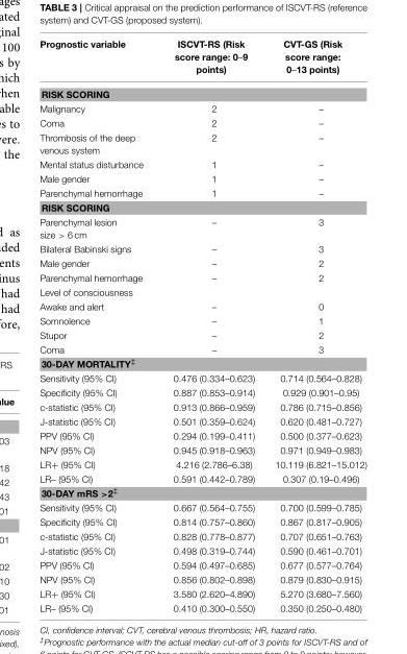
<table><thead><tr><td>Prognostic variable</td><td>ISCVT-RS (Risk score range: 0–9 points)</td><td>CVT-GS (Risk score range: 0–13 points)</td></tr></thead><tbody><tr><td colspan="3">RISK SCORING</td></tr><tr><td>Malignancy</td><td>2</td><td>–</td></tr><tr><td>Coma</td><td>2</td><td>–</td></tr><tr><td>Thrombosis of the deep venous system</td><td>2</td><td>–</td></tr><tr><td>Mental status disturbance</td><td>1</td><td>–</td></tr><tr><td>Male gender</td><td>1</td><td>–</td></tr><tr><td>Parenchymal hemorrhage</td><td>1</td><td>–</td></tr><tr><td colspan="3">RISK SCORING</td></tr><tr><td>Parenchymal lesion size &gt; 6 cm</td><td>–</td><td>3</td></tr><tr><td>Bilateral Babinski signs</td><td>–</td><td>3</td></tr><tr><td>Male gender</td><td>–</td><td>2</td></tr><tr><td>Parenchymal hemorrhage</td><td>–</td><td>2</td></tr><tr><td colspan="3">Level of consciousness</td></tr><tr><td>Awake and alert</td><td>–</td><td>0</td></tr><tr><td>Somnolence</td><td>–</td><td>1</td></tr><tr><td>Stupor</td><td>–</td><td>2</td></tr><tr><td>Coma</td><td>–</td><td>3</td></tr><tr><td colspan="3">30-DAY MORTALITY<sup>‡</sup></td></tr><tr><td>Sensitivity (95% CI)</td><td>0.476 (0.334–0.623)</td><td>0.714 (0.564–0.828)</td></tr><tr><td>Specificity (95% CI)</td><td>0.887 (0.853–0.914)</td><td>0.929 (0.901–0.95)</td></tr><tr><td>c-statistic (95% CI)</td><td>0.913 (0.866–0.959)</td><td>0.786 (0.715–0.856)</td></tr><tr><td>J-statistic (95% CI)</td><td>0.501 (0.359–0.624)</td><td>0.620 (0.481–0.727)</td></tr><tr><td>PPV (95% CI)</td><td>0.294 (0.199–0.411)</td><td>0.500 (0.377–0.623)</td></tr><tr><td>NPV (95% CI)</td><td>0.945 (0.918–0.963)</td><td>0.971 (0.949–0.983)</td></tr><tr><td>LR+ (95% CI)</td><td>4.216 (2.786–6.38)</td><td>10.119 (6.821–15.012)</td></tr><tr><td>LR– (95% CI)</td><td>0.591 (0.442–0.789)</td><td>0.307 (0.19–0.496)</td></tr><tr><td colspan="3">30-DAY mRS &gt;2<sup>‡</sup></td></tr><tr><td>Sensitivity (95% CI)</td><td>0.667 (0.564–0.755)</td><td>0.700 (0.599–0.785)</td></tr><tr><td>Specificity (95% CI)</td><td>0.814 (0.757–0.860)</td><td>0.867 (0.817–0.905)</td></tr><tr><td>c-statistic (95% CI)</td><td>0.828 (0.778–0.877)</td><td>0.707 (0.651–0.763)</td></tr><tr><td>J-statistic (95% CI)</td><td>0.498 (0.319–0.744)</td><td>0.590 (0.461–0.701)</td></tr><tr><td>PPV (95% CI)</td><td>0.594 (0.497–0.685)</td><td>0.677 (0.577–0.764)</td></tr><tr><td>NPV (95% CI)</td><td>0.856 (0.802–0.898)</td><td>0.879 (0.830–0.915)</td></tr><tr><td>LR+ (95% CI)</td><td>3.580 (2.620–4.890)</td><td>5.270 (3.680–7.560)</td></tr><tr><td>LR– (95% CI)</td><td>0.410 (0.300–0.550)</td><td>0.350 (0.250–0.480)</td></tr></tbody></table>